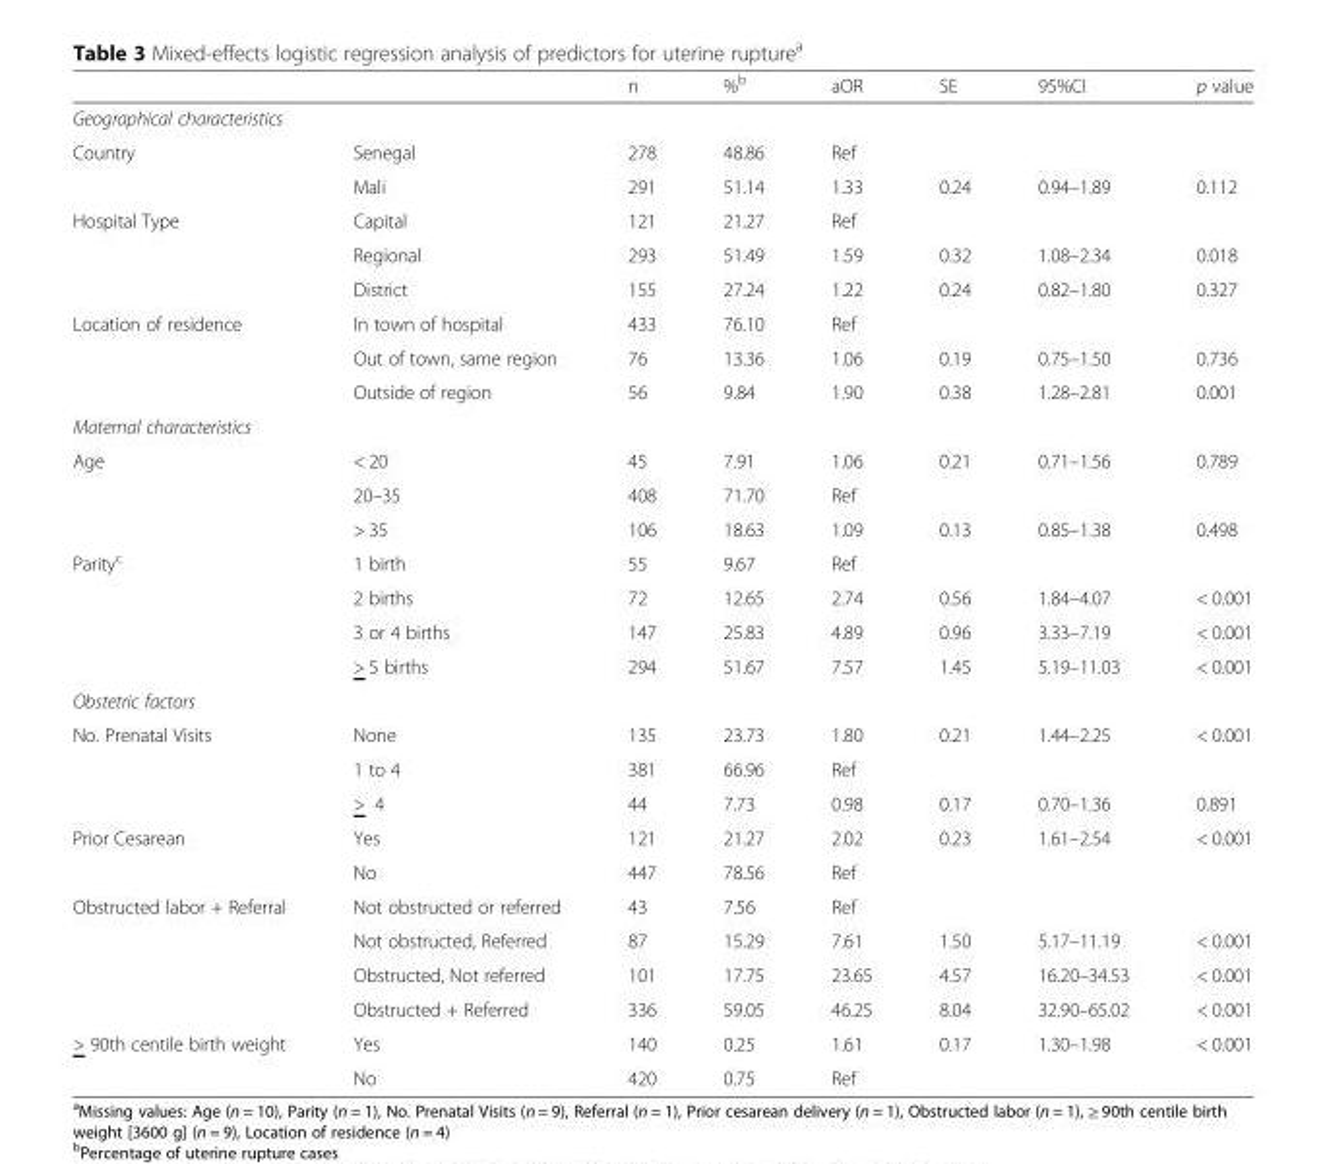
<table><thead><tr><td></td><td></td><td>n</td><td>%<sup>b</sup></td><td>aOR</td><td>SE</td><td>95%CI</td><td>p value</td></tr></thead><tbody><tr><td colspan="8">Geographical characteristics</td></tr><tr><td rowspan="2">Country</td><td>Senegal</td><td>278</td><td>48.86</td><td>Ref</td><td></td><td></td><td></td></tr><tr><td>Mali</td><td>291</td><td>51.14</td><td>1.33</td><td>0.24</td><td>0.94–1.89</td><td>0.112</td></tr><tr><td rowspan="3">Hospital Type</td><td>Capital</td><td>121</td><td>21.27</td><td>Ref</td><td></td><td></td><td></td></tr><tr><td>Regional</td><td>293</td><td>51.49</td><td>1.59</td><td>0.32</td><td>1.08–2.34</td><td>0.018</td></tr><tr><td>District</td><td>155</td><td>27.24</td><td>1.22</td><td>0.24</td><td>0.82–1.80</td><td>0.327</td></tr><tr><td rowspan="3">Location of residence</td><td>In town of hospital</td><td>433</td><td>76.10</td><td>Ref</td><td></td><td></td><td></td></tr><tr><td>Out of town, same region</td><td>76</td><td>13.36</td><td>1.06</td><td>0.19</td><td>0.75–1.50</td><td>0.736</td></tr><tr><td>Outside of region</td><td>56</td><td>9.84</td><td>1.90</td><td>0.38</td><td>1.28–2.81</td><td>0.001</td></tr><tr><td colspan="8">Maternal characteristics</td></tr><tr><td rowspan="3">Age</td><td>&lt; 20</td><td>45</td><td>7.91</td><td>1.06</td><td>0.21</td><td>0.71–1.56</td><td>0.789</td></tr><tr><td>20–35</td><td>408</td><td>71.70</td><td>Ref</td><td></td><td></td><td></td></tr><tr><td>&gt; 35</td><td>106</td><td>18.63</td><td>1.09</td><td>0.13</td><td>0.85–1.38</td><td>0.498</td></tr><tr><td rowspan="4">Parity<sup>c</sup></td><td>1 birth</td><td>55</td><td>9.67</td><td>Ref</td><td></td><td></td><td></td></tr><tr><td>2 births</td><td>72</td><td>12.65</td><td>2.74</td><td>0.56</td><td>1.84–4.07</td><td>&lt; 0.001</td></tr><tr><td>3 or 4 births</td><td>147</td><td>25.83</td><td>4.89</td><td>0.96</td><td>3.33–7.19</td><td>&lt; 0.001</td></tr><tr><td>&gt; 5 births</td><td>294</td><td>51.67</td><td>7.57</td><td>1.45</td><td>5.19–11.03</td><td>&lt; 0.001</td></tr><tr><td colspan="8">Obstetric factors</td></tr><tr><td rowspan="3">No. Prenatal Visits</td><td>None</td><td>135</td><td>23.73</td><td>1.80</td><td>0.21</td><td>1.44–2.25</td><td>&lt; 0.001</td></tr><tr><td>1 to 4</td><td>381</td><td>66.96</td><td>Ref</td><td></td><td></td><td></td></tr><tr><td>&gt; 4</td><td>44</td><td>7.73</td><td>0.98</td><td>0.17</td><td>0.70–1.36</td><td>0.891</td></tr><tr><td rowspan="2">Prior Cesarean</td><td>Yes</td><td>121</td><td>21.27</td><td>2.02</td><td>0.23</td><td>1.61–2.54</td><td>&lt; 0.001</td></tr><tr><td>No</td><td>447</td><td>78.56</td><td>Ref</td><td></td><td></td><td></td></tr><tr><td rowspan="4">Obstructed labor + Referral</td><td>Not obstructed or referred</td><td>43</td><td>7.56</td><td>Ref</td><td></td><td></td><td></td></tr><tr><td>Not obstructed, Referred</td><td>87</td><td>15.29</td><td>7.61</td><td>1.50</td><td>5.17–11.19</td><td>&lt; 0.001</td></tr><tr><td>Obstructed, Not referred</td><td>101</td><td>17.75</td><td>23.65</td><td>4.57</td><td>16.20–34.53</td><td>&lt; 0.001</td></tr><tr><td>Obstructed + Referred</td><td>336</td><td>59.05</td><td>46.25</td><td>8.04</td><td>32.90–65.02</td><td>&lt; 0.001</td></tr><tr><td rowspan="2">&gt; 90th centile birth weight</td><td>Yes</td><td>140</td><td>0.25</td><td>1.61</td><td>0.17</td><td>1.30–1.98</td><td>&lt; 0.001</td></tr><tr><td>No</td><td>420</td><td>0.75</td><td>Ref</td><td></td><td></td><td></td></tr></tbody></table>